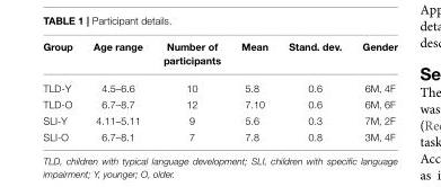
<table><thead><tr><td>Group</td><td>Age range</td><td>Number of participants</td><td>Mean</td><td>Stand. dev.</td><td>Gender</td></tr></thead><tbody><tr><td>TLD-Y</td><td>4.5–6.6</td><td>10</td><td>5.8</td><td>0.6</td><td>6M, 4F</td></tr><tr><td>TLD-O</td><td>6.7–8.7</td><td>12</td><td>7.10</td><td>0.6</td><td>6M, 6F</td></tr><tr><td>SLI-Y</td><td>4.11–5.11</td><td>9</td><td>5.6</td><td>0.3</td><td>7M, 2F</td></tr><tr><td>SLI-O</td><td>6.7–8.1</td><td>7</td><td>7.8</td><td>0.8</td><td>3M, 4F</td></tr></tbody></table>